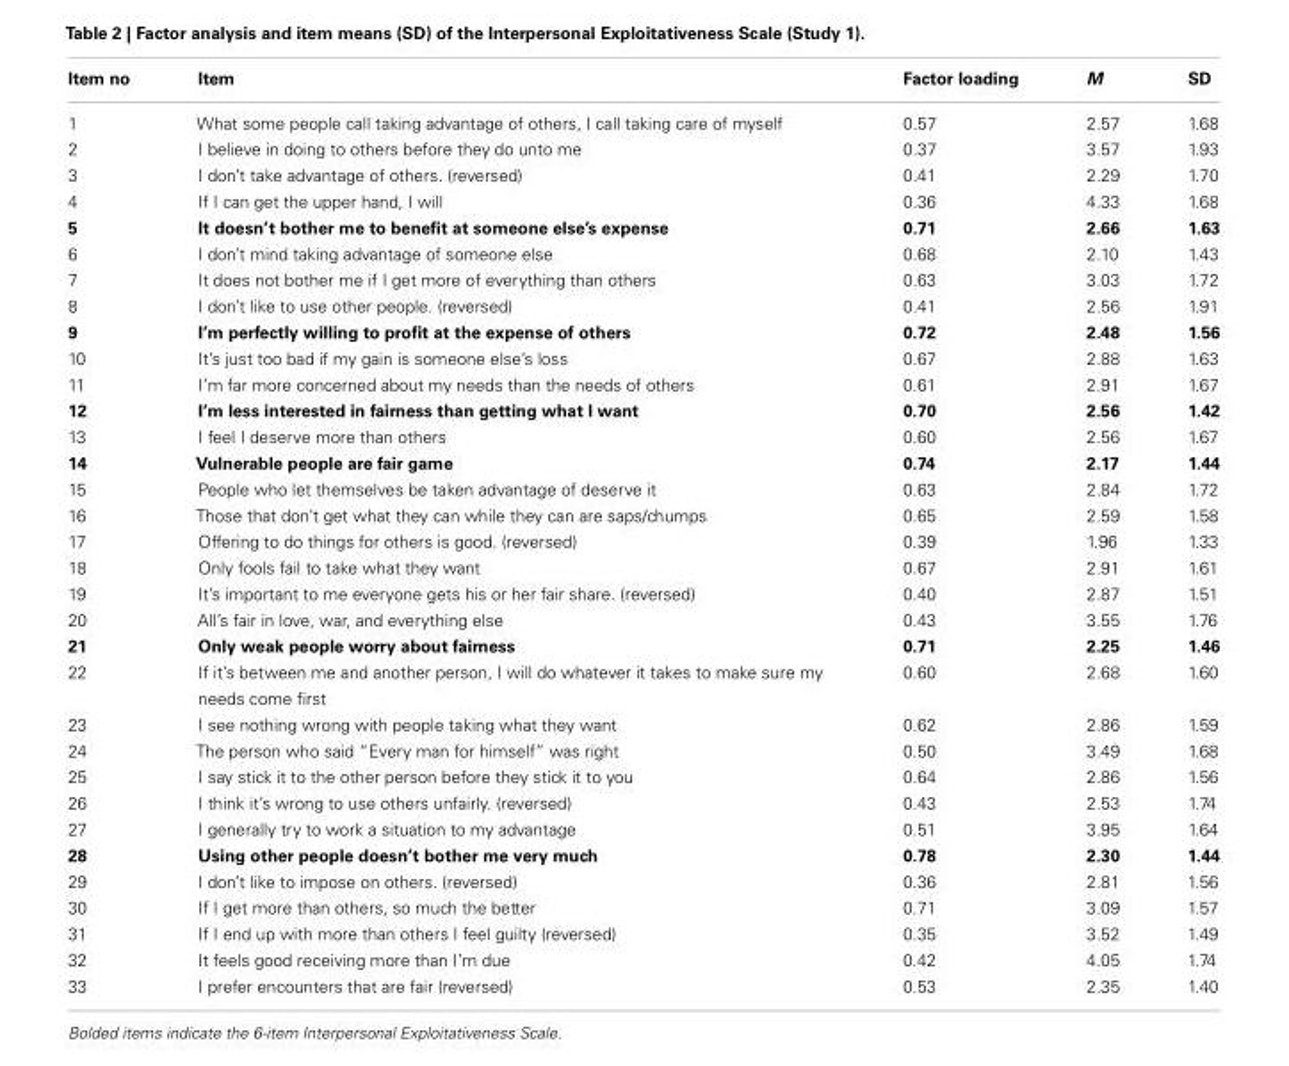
<table><thead><tr><td>Item no</td><td>Item</td><td>Factor loading</td><td>M</td><td>SD</td></tr></thead><tbody><tr><td>1</td><td>What some people call taking advantage of others, I call taking care of myself</td><td>0.57</td><td>2.57</td><td>1.68</td></tr><tr><td>2</td><td>I believe in doing to others before they do unto me</td><td>0.37</td><td>3.57</td><td>1.93</td></tr><tr><td>3</td><td>I don’t take advantage of others. (reversed)</td><td>0.41</td><td>2.29</td><td>1.70</td></tr><tr><td>4</td><td>If I can get the upper hand, I will</td><td>0.36</td><td>4.33</td><td>1.68</td></tr><tr><td>5</td><td>It doesn’t bother me to benefit at someone else’s expense</td><td>0.71</td><td>2.66</td><td>1.63</td></tr><tr><td>6</td><td>I don’t mind taking advantage of someone else</td><td>0.68</td><td>2.10</td><td>1.43</td></tr><tr><td>7</td><td>It does not bother me if I get more of everything than others</td><td>0.63</td><td>3.03</td><td>1.72</td></tr><tr><td>8</td><td>I don’t like to use other people. (reversed)</td><td>0.41</td><td>2.56</td><td>1.91</td></tr><tr><td>9</td><td>I’m perfectly willing to profit at the expense of others</td><td>0.72</td><td>2.48</td><td>1.56</td></tr><tr><td>10</td><td>It’s just too bad if my gain is someone else’s loss</td><td>0.67</td><td>2.88</td><td>1.63</td></tr><tr><td>11</td><td>I’m far more concerned about my needs than the needs of others</td><td>0.61</td><td>2.91</td><td>1.67</td></tr><tr><td>12</td><td>I’m less interested in fairness than getting what I want</td><td>0.70</td><td>2.56</td><td>1.42</td></tr><tr><td>13</td><td>I feel I deserve more than others</td><td>0.60</td><td>2.56</td><td>1.67</td></tr><tr><td>14</td><td>Vulnerable people are fair game</td><td>0.74</td><td>2.17</td><td>1.44</td></tr><tr><td>15</td><td>People who let themselves be taken advantage of deserve it</td><td>0.63</td><td>2.84</td><td>1.72</td></tr><tr><td>16</td><td>Those that don’t get what they can while they can are saps/chumps</td><td>0.65</td><td>2.59</td><td>1.58</td></tr><tr><td>17</td><td>Offering to do things for others is good. (reversed)</td><td>0.39</td><td>1.96</td><td>1.33</td></tr><tr><td>18</td><td>Only fools fail to take what they want</td><td>0.67</td><td>2.91</td><td>1.61</td></tr><tr><td>19</td><td>It’s important to me everyone gets his or her fair share. (reversed)</td><td>0.40</td><td>2.87</td><td>1.51</td></tr><tr><td>20</td><td>All’s fair in love, war, and everything else</td><td>0.43</td><td>3.55</td><td>1.76</td></tr><tr><td>21</td><td>Only weak people worry about fairness</td><td>0.71</td><td>2.25</td><td>1.46</td></tr><tr><td>22</td><td>If it’s between me and another person, I will do whatever it takes to make sure my needs come first</td><td>0.60</td><td>2.68</td><td>1.60</td></tr><tr><td>23</td><td>I see nothing wrong with people taking what they want</td><td>0.62</td><td>2.86</td><td>1.59</td></tr><tr><td>24</td><td>The person who said “Every man for himself” was right</td><td>0.50</td><td>3.49</td><td>1.68</td></tr><tr><td>25</td><td>I say stick it to the other person before they stick it to you</td><td>0.64</td><td>2.86</td><td>1.56</td></tr><tr><td>26</td><td>I think it’s wrong to use others unfairly. (reversed)</td><td>0.43</td><td>2.53</td><td>1.74</td></tr><tr><td>27</td><td>I generally try to work a situation to my advantage</td><td>0.51</td><td>3.95</td><td>1.64</td></tr><tr><td>28</td><td>Using other people doesn’t bother me very much</td><td>0.78</td><td>2.30</td><td>1.44</td></tr><tr><td>29</td><td>I don’t like to impose on others. (reversed)</td><td>0.36</td><td>2.81</td><td>1.56</td></tr><tr><td>30</td><td>If I get more than others, so much the better</td><td>0.71</td><td>3.09</td><td>1.57</td></tr><tr><td>31</td><td>If I end up with more than others I feel guilty (reversed)</td><td>0.35</td><td>3.52</td><td>1.49</td></tr><tr><td>32</td><td>It feels good receiving more than I’m due</td><td>0.42</td><td>4.05</td><td>1.74</td></tr><tr><td>33</td><td>I prefer encounters that are fair (reversed)</td><td>0.53</td><td>2.35</td><td>1.40</td></tr></tbody></table>